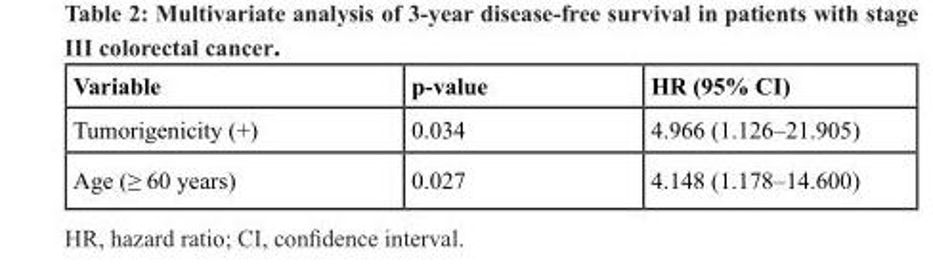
<table><thead><tr><td>Variable</td><td>p-value</td><td>HR (95% CI)</td></tr></thead><tbody><tr><td>Tumorigenicity (+)</td><td>0.034</td><td>4.966 (1.126–21.905)</td></tr><tr><td>Age (≥ 60 years)</td><td>0.027</td><td>4.148 (1.178–14.600)</td></tr></tbody></table>